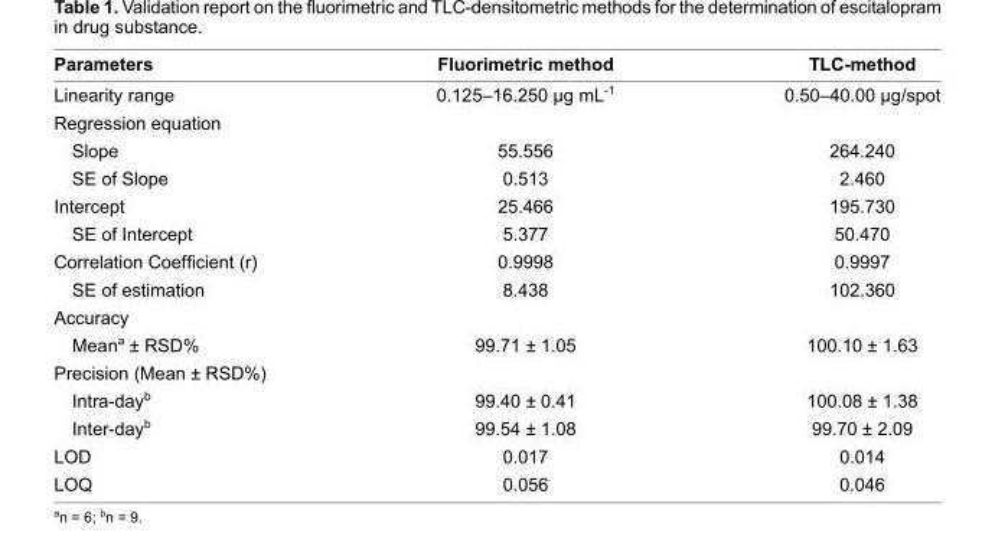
<table><thead><tr><td>Parameters</td><td>Fluorimetric method</td><td>TLC-method</td></tr></thead><tbody><tr><td>Linearity range</td><td>0.125–16.250 μg mL<sup>-1</sup></td><td>0.50–40.00 μg/spot</td></tr><tr><td colspan="3">Regression equation</td></tr><tr><td>Slope</td><td>55.556</td><td>264.240</td></tr><tr><td>SE of Slope</td><td>0.513</td><td>2.460</td></tr><tr><td>Intercept</td><td>25.466</td><td>195.730</td></tr><tr><td>SE of Intercept</td><td>5.377</td><td>50.470</td></tr><tr><td>Correlation Coeffi cient (r)</td><td>0.9998</td><td>0.9997</td></tr><tr><td>SE of estimation</td><td>8.438</td><td>102.360</td></tr><tr><td colspan="3">Accuracy</td></tr><tr><td>Mean<sup>a</sup> ± RSD%</td><td>99.71 ± 1.05</td><td>100.10 ± 1.63</td></tr><tr><td colspan="3">Precision (Mean ± RSD%)</td></tr><tr><td>Intra-day<sup>b</sup></td><td>99.40 ± 0.41</td><td>100.08 ± 1.38</td></tr><tr><td>Inter-day<sup>b</sup></td><td>99.54 ± 1.08</td><td>99.70 ± 2.09</td></tr><tr><td>LOD</td><td>0.017</td><td>0.014</td></tr><tr><td>LOQ</td><td>0.056</td><td>0.046</td></tr></tbody></table>